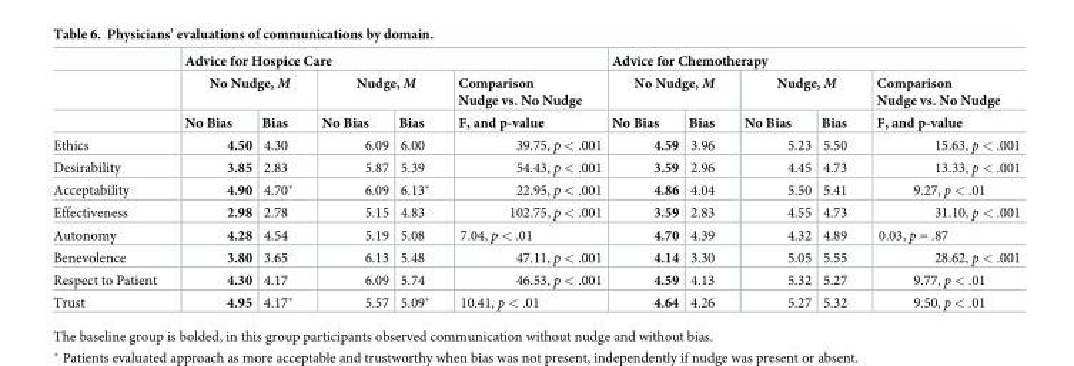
<table><thead><tr><td rowspan="3"></td><td colspan="5">Advice for Hospice Care</td><td colspan="5">Advice for Chemotherapy</td></tr><tr><td colspan="2">No Nudge, M</td><td colspan="2">Nudge, M</td><td rowspan="2">Comparison Nudge vs. No Nudge F, and p-value</td><td colspan="2">No Nudge, M</td><td colspan="2">Nudge, M</td><td rowspan="2">Comparison Nudge vs. No Nudge F, and p-value</td></tr><tr><td>No Bias</td><td>Bias</td><td>No Bias</td><td>Bias</td><td>No Bias</td><td>Bias</td><td>No Bias</td><td>Bias</td></tr></thead><tbody><tr><td>Ethics</td><td>4.50</td><td>4.30</td><td>6.09</td><td>6.00</td><td>39.75, p &lt; .001</td><td>4.59</td><td>3.96</td><td>5.23</td><td>5.50</td><td>15.63, p &lt; .001</td></tr><tr><td>Desirability</td><td>3.85</td><td>2.83</td><td>5.87</td><td>5.39</td><td>54.43, p &lt; .001</td><td>3.59</td><td>2.96</td><td>4.45</td><td>4.73</td><td>13.33, p &lt; .001</td></tr><tr><td>Acceptability</td><td>4.90</td><td>4.70*</td><td>6.09</td><td>6.13*</td><td>22.95, p &lt; .001</td><td>4.86</td><td>4.04</td><td>5.50</td><td>5.41</td><td>9.27, p &lt; .01</td></tr><tr><td>Effectiveness</td><td>2.98</td><td>2.78</td><td>5.15</td><td>4.83</td><td>102.75, p &lt; .001</td><td>3.59</td><td>2.83</td><td>4.55</td><td>4.73</td><td>31.10, p &lt; .001</td></tr><tr><td>Autonomy</td><td>4.28</td><td>4.54</td><td>5.19</td><td>5.08</td><td>7.04, p &lt; .01</td><td>4.70</td><td>4.39</td><td>4.32</td><td>4.89</td><td>0.03, p = .87</td></tr><tr><td>Benevolence</td><td>3.80</td><td>3.65</td><td>6.13</td><td>5.48</td><td>47.11, p &lt; .001</td><td>4.14</td><td>3.30</td><td>5.05</td><td>5.55</td><td>28.62, p &lt; .001</td></tr><tr><td>Respect to Patient</td><td>4.30</td><td>4.17</td><td>6.09</td><td>5.74</td><td>46.53, p &lt; .001</td><td>4.59</td><td>4.13</td><td>5.32</td><td>5.27</td><td>9.77, p &lt; .01</td></tr><tr><td>Trust</td><td>4.95</td><td>4.17*</td><td>5.57</td><td>5.09*</td><td>10.41, p &lt; .01</td><td>4.64</td><td>4.26</td><td>5.27</td><td>5.32</td><td>9.50, p &lt; .01</td></tr></tbody></table>